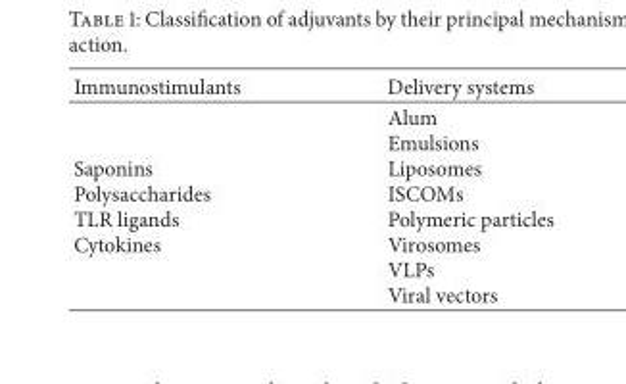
<table><thead><tr><td>Immunostimulants</td><td>Delivery systems</td></tr></thead><tbody><tr><td>Saponins Polysaccharides TLR ligands Cytokines</td><td>Alum Emulsions Liposomes ISCOMs Polymeric particles Virosomes VLPs Viral vectors</td></tr></tbody></table>